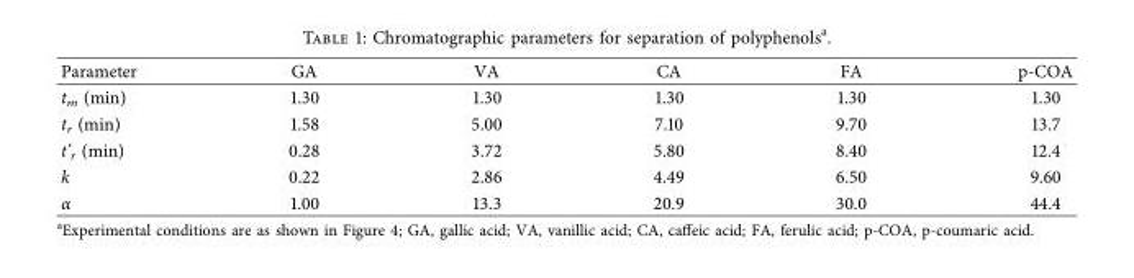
<table><thead><tr><td>Parameter</td><td>GA</td><td>VA</td><td>CA</td><td>FA</td><td>p-COA</td></tr></thead><tbody><tr><td>t<sub>m</sub> (min)</td><td>1.30</td><td>1.30</td><td>1.30</td><td>1.30</td><td>1.30</td></tr><tr><td>t<sub>r</sub> (min)</td><td>1.58</td><td>5.00</td><td>7.10</td><td>9.70</td><td>13.7</td></tr><tr><td>t’<sub>r</sub> (min)</td><td>0.28</td><td>3.72</td><td>5.80</td><td>8.40</td><td>12.4</td></tr><tr><td>k</td><td>0.22</td><td>2.86</td><td>4.49</td><td>6.50</td><td>9.60</td></tr><tr><td>α</td><td>1.00</td><td>13.3</td><td>20.9</td><td>30.0</td><td>44.4</td></tr></tbody></table>